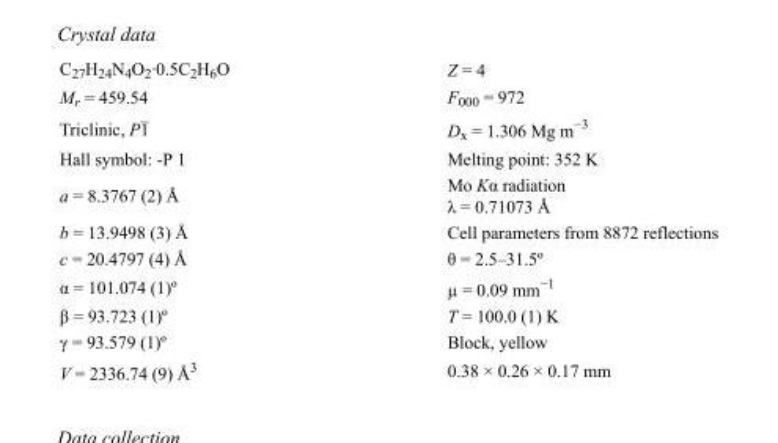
<table><tbody><tr><td>C<sub>27</sub>H<sub>24</sub>N<sub>4</sub>O<sub>2</sub>·0.5C<sub>2</sub>H<sub>6</sub>O</td><td>Z = 4</td></tr><tr><td>M<sub>r</sub> = 459.54</td><td>F000 = 972</td></tr><tr><td>Triclinic, P1</td><td>D<sub>x</sub> = 1.306 Mg m<sup>−3</sup></td></tr><tr><td>Hall symbol: -P 1</td><td>Melting point: 352 K</td></tr><tr><td>a = 8.3767 (2) Å</td><td>Mo Kα radiation λ = 0.71073 Å</td></tr><tr><td>b = 13.9498 (3) Å</td><td>Cell parameters from 8872 reflections</td></tr><tr><td>c = 20.4797 (4) Å</td><td>θ = 2.5–31.5º</td></tr><tr><td>α = 101.074 (1)º</td><td>µ = 0.09 mm<sup>−1</sup></td></tr><tr><td>β = 93.723 (1)º</td><td>T = 100.0 (1) K</td></tr><tr><td>γ = 93.579 (1)º</td><td>Block, yellow</td></tr><tr><td>V = 2336.74 (9) Å<sup>3</sup></td><td>0.38 × 0.26 × 0.17 mm</td></tr></tbody></table>